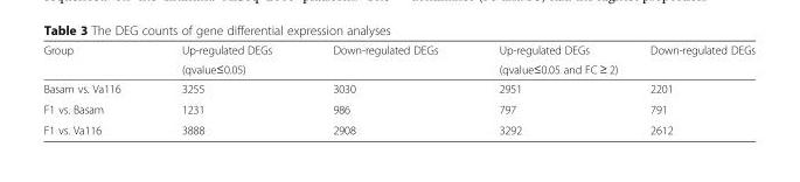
<table><thead><tr><td rowspan="2">Group</td><td>Up-regulated DEGs</td><td>Down-regulated DEGs</td><td>Up-regulated DEGs</td><td>Down-regulated DEGs</td></tr><tr><td colspan="2">(qvalue≤0.05)</td><td colspan="2">(qvalue≤0.05 and FC ≥ 2)</td></tr></thead><tbody><tr><td>Basam vs. Va116</td><td>3255</td><td>3030</td><td>2951</td><td>2201</td></tr><tr><td>F1 vs. Basam</td><td>1231</td><td>986</td><td>797</td><td>791</td></tr><tr><td>F1 vs. Va116</td><td>3888</td><td>2908</td><td>3292</td><td>2612</td></tr></tbody></table>